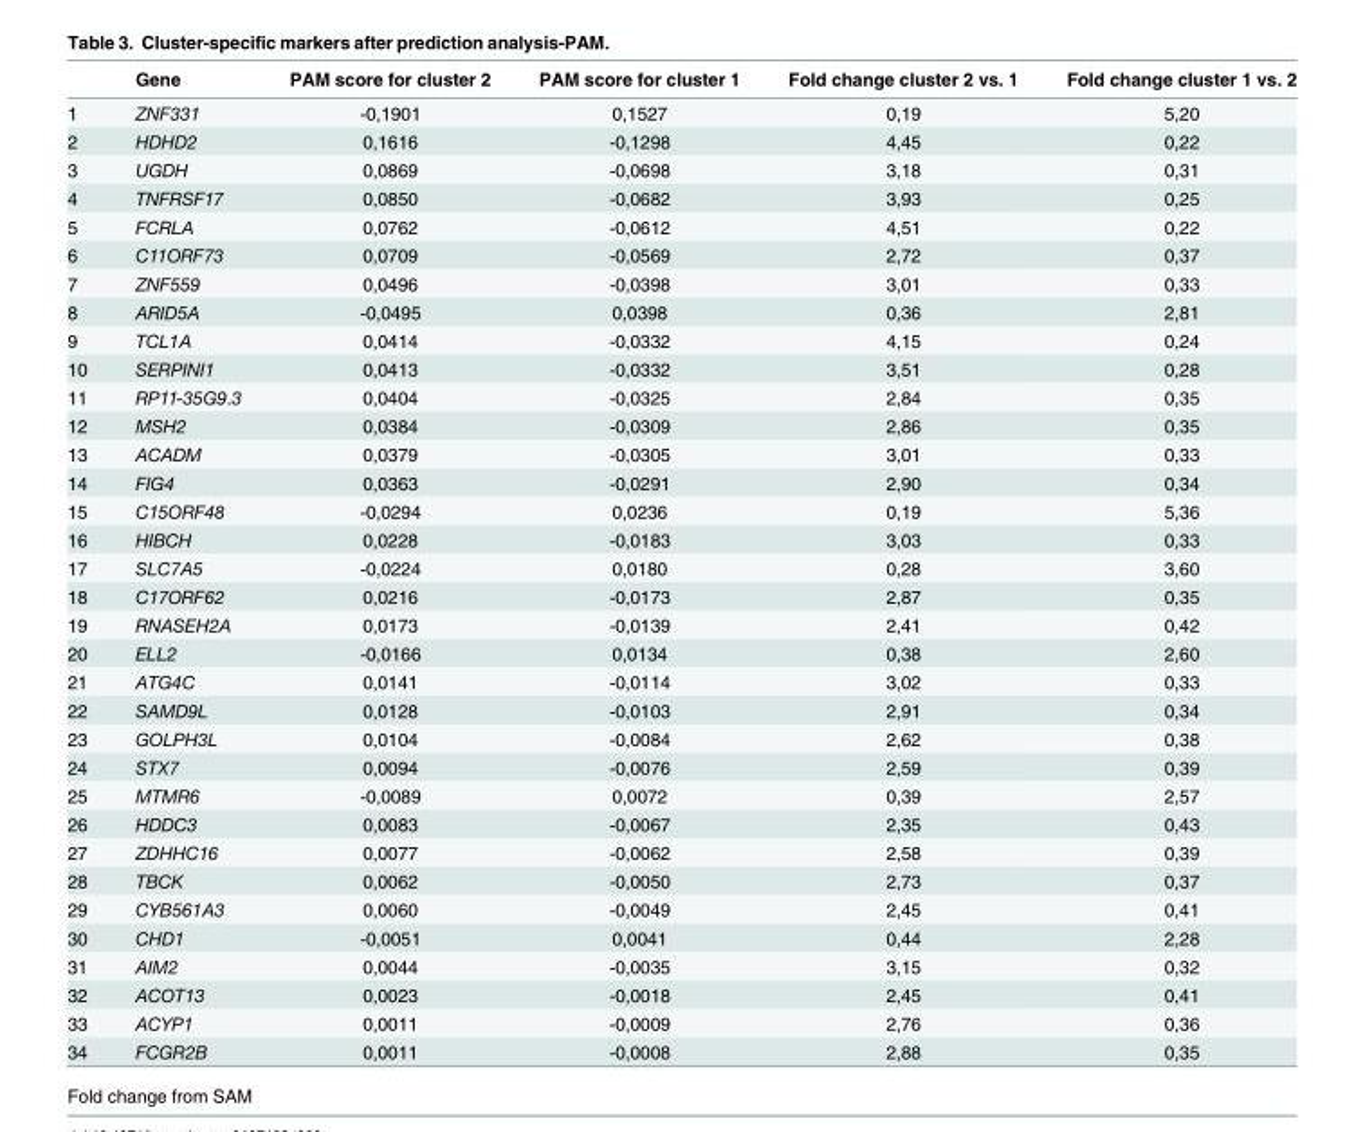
<table><thead><tr><td></td><td>Gene</td><td>PAM score for cluster 2</td><td>PAM score for cluster 1</td><td>Fold change cluster 2 vs. 1</td><td>Fold change cluster 1 vs. 2</td></tr></thead><tbody><tr><td>1</td><td>ZNF331</td><td>-0,1901</td><td>0,1527</td><td>0,19</td><td>5,20</td></tr><tr><td>2</td><td>HDHD2</td><td>0,1616</td><td>-0,1298</td><td>4,45</td><td>0,22</td></tr><tr><td>3</td><td>UGDH</td><td>0,0869</td><td>-0,0698</td><td>3,18</td><td>0,31</td></tr><tr><td>4</td><td>TNFRSF17</td><td>0,0850</td><td>-0,0682</td><td>3,93</td><td>0,25</td></tr><tr><td>5</td><td>FCRLA</td><td>0,0762</td><td>-0,0612</td><td>4,51</td><td>0,22</td></tr><tr><td>6</td><td>C11ORF73</td><td>0,0709</td><td>-0,0569</td><td>2,72</td><td>0,37</td></tr><tr><td>7</td><td>ZNF559</td><td>0,0496</td><td>-0,0398</td><td>3,01</td><td>0,33</td></tr><tr><td>8</td><td>ARID5A</td><td>-0,0495</td><td>0,0398</td><td>0,36</td><td>2,81</td></tr><tr><td>9</td><td>TCL1A</td><td>0,0414</td><td>-0,0332</td><td>4,15</td><td>0,24</td></tr><tr><td>10</td><td>SERPINI1</td><td>0,0413</td><td>-0,0332</td><td>3,51</td><td>0,28</td></tr><tr><td>11</td><td>RP11-35G9.3</td><td>0,0404</td><td>-0,0325</td><td>2,84</td><td>0,35</td></tr><tr><td>12</td><td>MSH2</td><td>0,0384</td><td>-0,0309</td><td>2,86</td><td>0,35</td></tr><tr><td>13</td><td>ACADM</td><td>0,0379</td><td>-0,0305</td><td>3,01</td><td>0,33</td></tr><tr><td>14</td><td>FIG4</td><td>0,0363</td><td>-0,0291</td><td>2,90</td><td>0,34</td></tr><tr><td>15</td><td>C15ORF48</td><td>-0,0294</td><td>0,0236</td><td>0,19</td><td>5,36</td></tr><tr><td>16</td><td>HIBCH</td><td>0,0228</td><td>-0,0183</td><td>3,03</td><td>0,33</td></tr><tr><td>17</td><td>SLC7A5</td><td>-0,0224</td><td>0,0180</td><td>0,28</td><td>3,60</td></tr><tr><td>18</td><td>C17ORF62</td><td>0,0216</td><td>-0,0173</td><td>2,87</td><td>0,35</td></tr><tr><td>19</td><td>RNASEH2A</td><td>0,0173</td><td>-0,0139</td><td>2,41</td><td>0,42</td></tr><tr><td>20</td><td>ELL2</td><td>-0,0166</td><td>0,0134</td><td>0,38</td><td>2,60</td></tr><tr><td>21</td><td>ATG4C</td><td>0,0141</td><td>-0,0114</td><td>3,02</td><td>0,33</td></tr><tr><td>22</td><td>SAMD9L</td><td>0,0128</td><td>-0,0103</td><td>2,91</td><td>0,34</td></tr><tr><td>23</td><td>GOLPH3L</td><td>0,0104</td><td>-0,0084</td><td>2,62</td><td>0,38</td></tr><tr><td>24</td><td>STX7</td><td>0,0094</td><td>-0,0076</td><td>2,59</td><td>0,39</td></tr><tr><td>25</td><td>MTMR6</td><td>-0,0089</td><td>0,0072</td><td>0,39</td><td>2,57</td></tr><tr><td>26</td><td>HDDC3</td><td>0,0083</td><td>-0,0067</td><td>2,35</td><td>0,43</td></tr><tr><td>27</td><td>ZDHHC16</td><td>0,0077</td><td>-0,0062</td><td>2,58</td><td>0,39</td></tr><tr><td>28</td><td>TBCK</td><td>0,0062</td><td>-0,0050</td><td>2,73</td><td>0,37</td></tr><tr><td>29</td><td>CYB561A3</td><td>0,0060</td><td>-0,0049</td><td>2,45</td><td>0,41</td></tr><tr><td>30</td><td>CHD1</td><td>-0,0051</td><td>0,0041</td><td>0,44</td><td>2,28</td></tr><tr><td>31</td><td>AIM2</td><td>0,0044</td><td>-0,0035</td><td>3,15</td><td>0,32</td></tr><tr><td>32</td><td>ACOT13</td><td>0,0023</td><td>-0,0018</td><td>2,45</td><td>0,41</td></tr><tr><td>33</td><td>ACYP1</td><td>0,0011</td><td>-0,0009</td><td>2,76</td><td>0,36</td></tr><tr><td>34</td><td>FCGR2B</td><td>0,0011</td><td>-0,0008</td><td>2,88</td><td>0,35</td></tr></tbody></table>